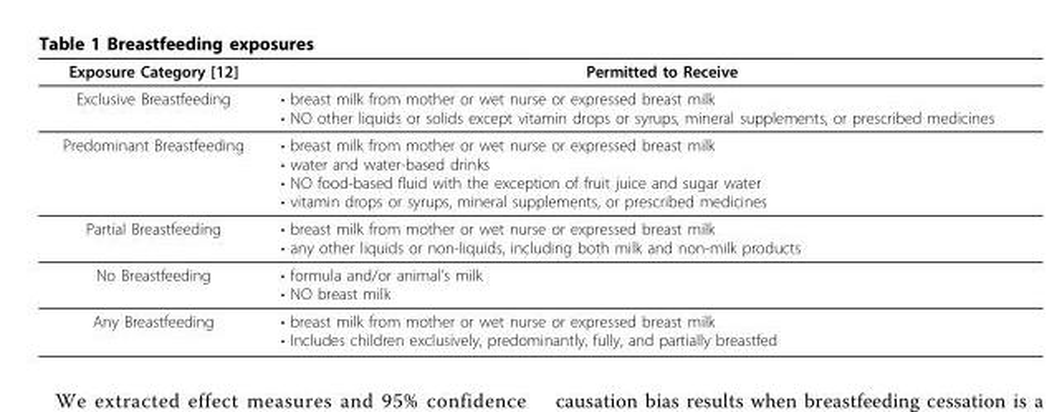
<table><thead><tr><td>Exposure Category [12]</td><td>Permitted to Receive</td></tr></thead><tbody><tr><td>Exclusive Breastfeeding</td><td>• breast milk from mother or wet nurse or expressed breast milk • NO other liquids or solids except vitamin drops or syrups, mineral supplements, or prescribed medicines</td></tr><tr><td>Predominant Breastfeeding</td><td>• breast milk from mother or wet nurse or expressed breast milk • water and water-based drinks • NO food-based fluid with the exception of fruit juice and sugar water • vitamin drops or syrups, mineral supplements, or prescribed medicines</td></tr><tr><td>Partial Breastfeeding</td><td>• breast milk from mother or wet nurse or expressed breast milk • any other liquids or non-liquids, including both milk and non-milk products</td></tr><tr><td>No Breastfeeding</td><td>• formula and/or animal’s milk • NO breast milk</td></tr><tr><td>Any Breastfeeding</td><td>• breast milk from mother or wet nurse or expressed breast milk • Includes children exclusively, predominantly, fully, and partially breastfed</td></tr></tbody></table>